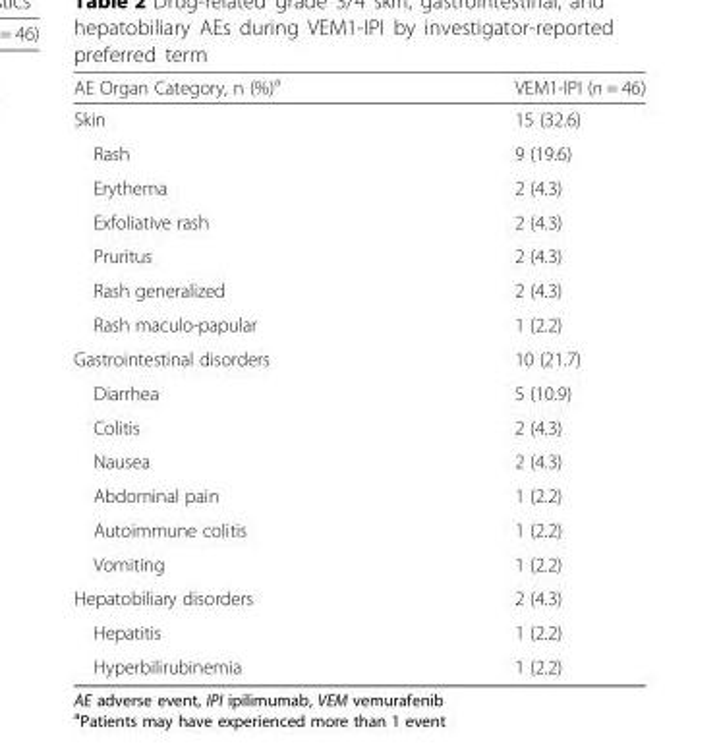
<table><thead><tr><td>AE Organ Category, n (%)<sup>a</sup></td><td>VEM1-IPI (n = 46)</td></tr></thead><tbody><tr><td>Skin</td><td>15 (32.6)</td></tr><tr><td>Rash</td><td>9 (19.6)</td></tr><tr><td>Erythema</td><td>2 (4.3)</td></tr><tr><td>Exfoliative rash</td><td>2 (4.3)</td></tr><tr><td>Pruritus</td><td>2 (4.3)</td></tr><tr><td>Rash generalized</td><td>2 (4.3)</td></tr><tr><td>Rash maculo-papular</td><td>1 (2.2)</td></tr><tr><td>Gastrointestinal disorders</td><td>10 (21.7)</td></tr><tr><td>Diarrhea</td><td>5 (10.9)</td></tr><tr><td>Colitis</td><td>2 (4.3)</td></tr><tr><td>Nausea</td><td>2 (4.3)</td></tr><tr><td>Abdominal pain</td><td>1 (2.2)</td></tr><tr><td>Autoimmune colitis</td><td>1 (2.2)</td></tr><tr><td>Vomiting</td><td>1 (2.2)</td></tr><tr><td>Hepatobiliary disorders</td><td>2 (4.3)</td></tr><tr><td>Hepatitis</td><td>1 (2.2)</td></tr><tr><td>Hyperbilirubinemia</td><td>1 (2.2)</td></tr></tbody></table>